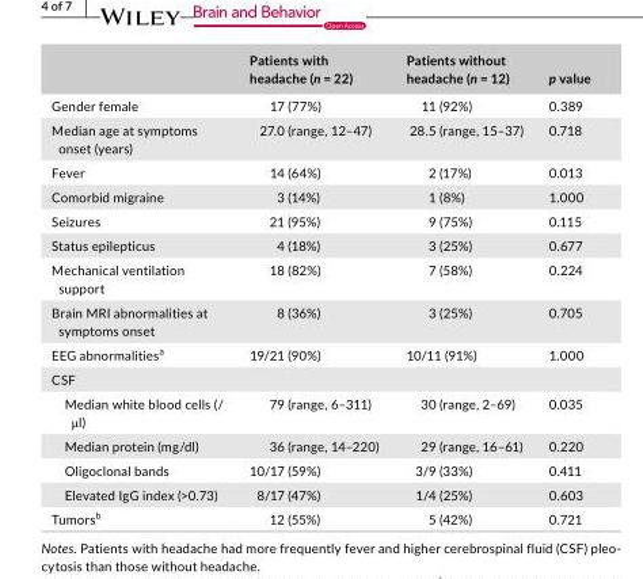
<table><thead><tr><td></td><td>Patients with headache (n = 22)</td><td>Patients without headache (n = 12)</td><td>p value</td></tr></thead><tbody><tr><td>Gender female</td><td>17 (77%)</td><td>11 (92%)</td><td>0.389</td></tr><tr><td>Median age at symptoms onset (years)</td><td>27.0 (range, 12–47)</td><td>28.5 (range, 15–37)</td><td>0.718</td></tr><tr><td>Fever</td><td>14 (64%)</td><td>2 (17%)</td><td>0.013</td></tr><tr><td>Comorbid migraine</td><td>3 (14%)</td><td>1 (8%)</td><td>1.000</td></tr><tr><td>Seizures</td><td>21 (95%)</td><td>9 (75%)</td><td>0.115</td></tr><tr><td>Status epilepticus</td><td>4 (18%)</td><td>3 (25%)</td><td>0.677</td></tr><tr><td>Mechanical ventilation support</td><td>18 (82%)</td><td>7 (58%)</td><td>0.224</td></tr><tr><td>Brain MRI abnormalities at symptoms onset</td><td>8 (36%)</td><td>3 (25%)</td><td>0.705</td></tr><tr><td>EEG abnormalities<sup>a</sup></td><td>19/21 (90%)</td><td>10/11 (91%)</td><td>1.000</td></tr><tr><td colspan="4">CSF</td></tr><tr><td>Median white blood cells (/ μl)</td><td>79 (range, 6–311)</td><td>30 (range, 2–69)</td><td>0.035</td></tr><tr><td>Median protein (mg/dl)</td><td>36 (range, 14–220)</td><td>29 (range, 16–61)</td><td>0.220</td></tr><tr><td>Oligoclonal bands</td><td>10/17 (59%)</td><td>3/9 (33%)</td><td>0.411</td></tr><tr><td>Elevated IgG index (&gt;0.73)</td><td>8/17 (47%)</td><td>1/4 (25%)</td><td>0.603</td></tr><tr><td>Tumors<sup>b</sup></td><td>12 (55%)</td><td>5 (42%)</td><td>0.721</td></tr></tbody></table>